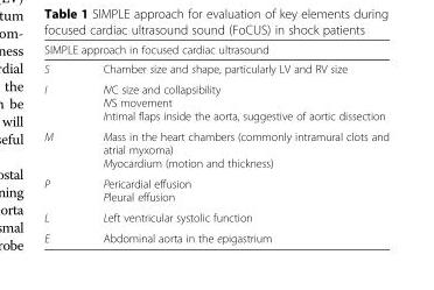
<table><thead><tr><td colspan="2">SIMPLE approach in focused cardiac ultrasound</td></tr><tr><td>S</td><td>Chamber size and shape, particularly LV and RV size</td></tr></thead><tbody><tr><td>I</td><td>IVC size and collapsibility IVS movement Intimal flaps inside the aorta, suggestive of aortic dissection</td></tr><tr><td>M</td><td>Mass in the heart chambers (commonly intramural clots and atrial myxoma) Myocardium (motion and thickness)</td></tr><tr><td>P</td><td>Pericardial effusion Pleural effusion</td></tr><tr><td>L</td><td>Left ventricular systolic function</td></tr><tr><td>E</td><td>Abdominal aorta in the epigastrium</td></tr></tbody></table>